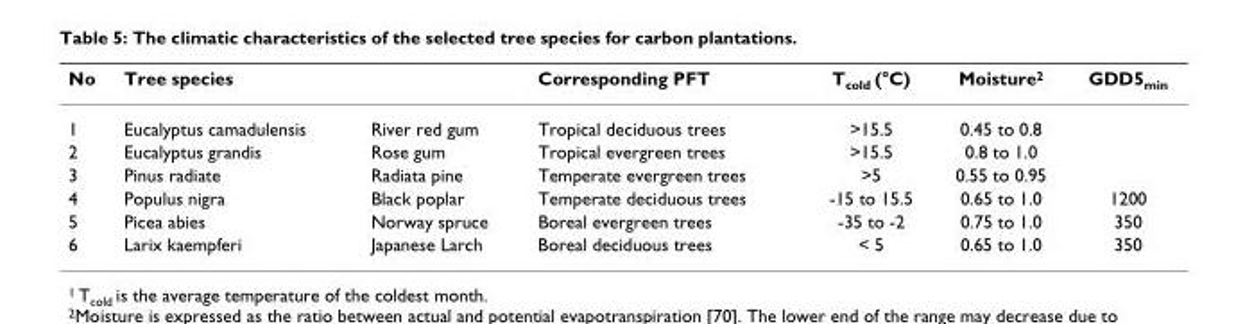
<table><thead><tr><td>No</td><td>Tree species</td><td></td><td>Corresponding PFT</td><td>T<sub>cold</sub> (°C)</td><td>Moisture<sup>2</sup></td><td>GDD5<sub>min</sub></td></tr></thead><tbody><tr><td>1</td><td>Eucalyptus camadulensis</td><td>River red gum</td><td>Tropical deciduous trees</td><td>&gt;15.5</td><td>0.45 to 0.8</td><td></td></tr><tr><td>2</td><td>Eucalyptus grandis</td><td>Rose gum</td><td>Tropical evergreen trees</td><td>&gt;15.5</td><td>0.8 to 1.0</td><td></td></tr><tr><td>3</td><td>Pinus radiate</td><td>Radiata pine</td><td>Temperate evergreen trees</td><td>&gt;5</td><td>0.55 to 0.95</td><td></td></tr><tr><td>4</td><td>Populus nigra</td><td>Black poplar</td><td>Temperate deciduous trees</td><td>-15 to 15.5</td><td>0.65 to 1.0</td><td>1200</td></tr><tr><td>5</td><td>Picea abies</td><td>Norway spruce</td><td>Boreal evergreen trees</td><td>-35 to -2</td><td>0.75 to 1.0</td><td>350</td></tr><tr><td>6</td><td>Larix kaempferi</td><td>Japanese Larch</td><td>Boreal deciduous trees</td><td>&lt; 5</td><td>0.65 to 1.0</td><td>350</td></tr></tbody></table>